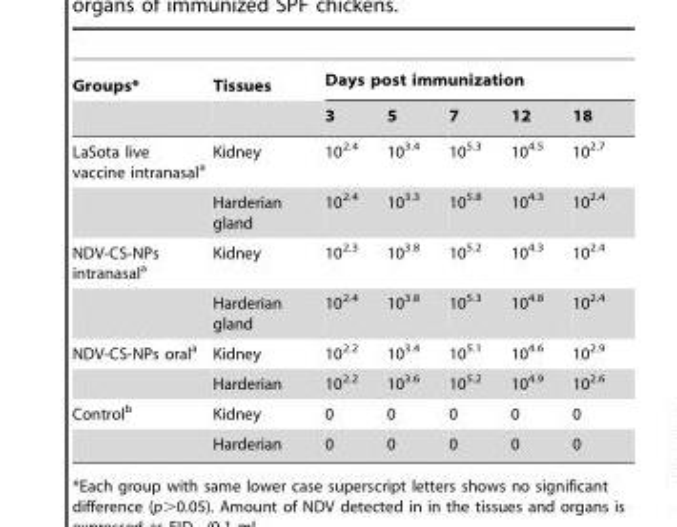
<table><thead><tr><td rowspan="2">Groups*</td><td rowspan="2">Tissues</td><td colspan="5">Days post immunization</td></tr><tr><td>3</td><td>5</td><td>7</td><td>12</td><td>18</td></tr></thead><tbody><tr><td rowspan="2">LaSota live vaccine intranasal<sup>a</sup></td><td>Kidney</td><td>10<sup>2.4</sup></td><td>10<sup>3.4</sup></td><td>10<sup>5.3</sup></td><td>10<sup>4.5</sup></td><td>10<sup>2.7</sup></td></tr><tr><td>Harderian gland</td><td>10<sup>2.4</sup></td><td>10<sup>3.3</sup></td><td>10<sup>5.8</sup></td><td>10<sup>4.3</sup></td><td>10<sup>2.4</sup></td></tr><tr><td rowspan="2">NDV-CS-NPs intranasal<sup>a</sup></td><td>Kidney</td><td>10<sup>2.3</sup></td><td>10<sup>3.8</sup></td><td>10<sup>5.2</sup></td><td>10<sup>4.3</sup></td><td>10<sup>2.4</sup></td></tr><tr><td>Harderian gland</td><td>10<sup>2.4</sup></td><td>10<sup>3.8</sup></td><td>10<sup>5.3</sup></td><td>10<sup>4.8</sup></td><td>10<sup>2.4</sup></td></tr><tr><td rowspan="2">NDV-CS-NPs oral<sup>a</sup></td><td>Kidney</td><td>10<sup>2.2</sup></td><td>10<sup>3.4</sup></td><td>10<sup>5.1</sup></td><td>10<sup>4.6</sup></td><td>10<sup>2.9</sup></td></tr><tr><td>Harderian</td><td>10<sup>2.2</sup></td><td>10<sup>3.6</sup></td><td>10<sup>5.2</sup></td><td>10<sup>4.9</sup></td><td>10<sup>2.6</sup></td></tr><tr><td rowspan="2">Control<sup>b</sup></td><td>Kidney</td><td>0</td><td>0</td><td>0</td><td>0</td><td>0</td></tr><tr><td>Harderian</td><td>0</td><td>0</td><td>0</td><td>0</td><td>0</td></tr></tbody></table>